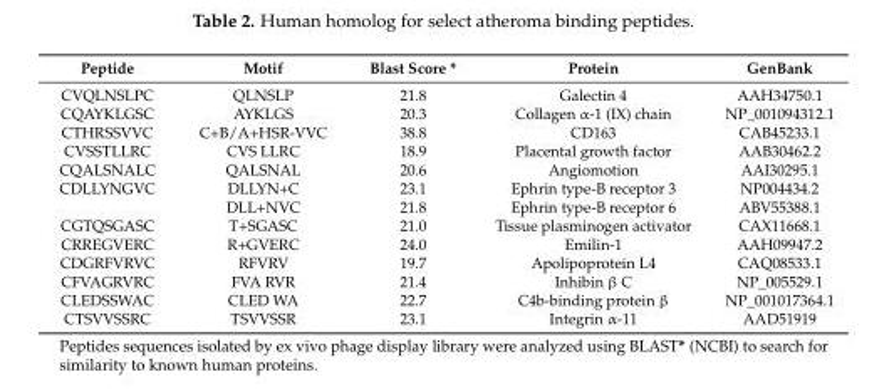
<table><thead><tr><td>Peptide</td><td>Motif</td><td>Blast Score *</td><td>Protein</td><td>GenBank</td></tr></thead><tbody><tr><td>CVQLNSLPC</td><td>QLNSLP</td><td>21.8</td><td>Galectin 4</td><td>AAH34750.1</td></tr><tr><td>CQAYKLGSC</td><td>AYKLGS</td><td>20.3</td><td>Collagen α-1 (IX) chain</td><td>NP_001094312.1</td></tr><tr><td>CTHRSSVVC</td><td>C+B/A+HSR-VVC</td><td>38.8</td><td>CD163</td><td>CAB45233.1</td></tr><tr><td>CVSSTLLRC</td><td>CVS LLRC</td><td>18.9</td><td>Placental growth factor</td><td>AAB30462.2</td></tr><tr><td>CQALSNALC</td><td>QALSNAL</td><td>20.6</td><td>Angiomotion</td><td>AAI30295.1</td></tr><tr><td rowspan="2">CDLLYNGVC</td><td>DLLYN+C</td><td>23.1</td><td>Ephrin type-B receptor 3</td><td>NP004434.2</td></tr><tr><td>DLL+NVC</td><td>21.8</td><td>Ephrin type-B receptor 6</td><td>ABV55388.1</td></tr><tr><td>CGTQSGASC</td><td>T+SGASC</td><td>21.0</td><td>Tissue plasminogen activator</td><td>CAX11668.1</td></tr><tr><td>CRREGVERC</td><td>R+GVERC</td><td>24.0</td><td>Emilin-1</td><td>AAH09947.2</td></tr><tr><td>CDGRFVRVC</td><td>RFVRV</td><td>19.7</td><td>Apolipoprotein L4</td><td>CAQ08533.1</td></tr><tr><td>CFVAGRVRC</td><td>FVA RVR</td><td>21.4</td><td>Inhibin β C</td><td>NP_005529.1</td></tr><tr><td>CLEDSSWAC</td><td>CLED WA</td><td>22.7</td><td>C4b-binding protein β</td><td>NP_001017364.1</td></tr><tr><td>CTSVVSSRC</td><td>TSVVSSR</td><td>23.1</td><td>Integrin α-11</td><td>AAD51919</td></tr></tbody></table>